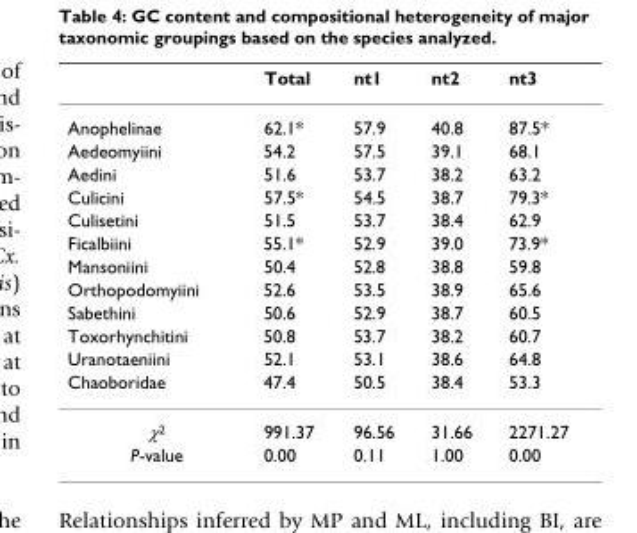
<table><thead><tr><td></td><td>Total</td><td>nt1</td><td>nt2</td><td>nt3</td></tr></thead><tbody><tr><td>Anophelinae</td><td>62.1*</td><td>57.9</td><td>40.8</td><td>87.5*</td></tr><tr><td>Aedeomyiini</td><td>54.2</td><td>57.5</td><td>39.1</td><td>68.1</td></tr><tr><td>Aedini</td><td>51.6</td><td>53.7</td><td>38.2</td><td>63.2</td></tr><tr><td>Culicini</td><td>57.5*</td><td>54.5</td><td>38.7</td><td>79.3*</td></tr><tr><td>Culisetini</td><td>51.5</td><td>53.7</td><td>38.4</td><td>62.9</td></tr><tr><td>Ficalbiini</td><td>55.1*</td><td>52.9</td><td>39.0</td><td>73.9*</td></tr><tr><td>Mansoniini</td><td>50.4</td><td>52.8</td><td>38.8</td><td>59.8</td></tr><tr><td>Orthopodomyiini</td><td>52.6</td><td>53.5</td><td>38.9</td><td>65.6</td></tr><tr><td>Sabethini</td><td>50.6</td><td>52.9</td><td>38.7</td><td>60.5</td></tr><tr><td>Toxorhynchitini</td><td>50.8</td><td>53.7</td><td>38.2</td><td>60.7</td></tr><tr><td>Uranotaeniini</td><td>52.1</td><td>53.1</td><td>38.6</td><td>64.8</td></tr><tr><td>Chaoboridae</td><td>47.4</td><td>50.5</td><td>38.4</td><td>53.3</td></tr><tr><td>χ<sup>2</sup></td><td>991.37</td><td>96.56</td><td>31.66</td><td>2271.27</td></tr><tr><td>P-value</td><td>0.00</td><td>0.11</td><td>1.00</td><td>0.00</td></tr></tbody></table>